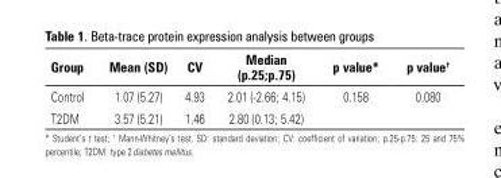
<table><thead><tr><td>Group</td><td>Mean (SD)</td><td>CV</td><td>Median (p.25;p.75)</td><td>p value*</td><td>p value†</td></tr></thead><tbody><tr><td>Control</td><td>1.07 (5.27)</td><td>4.93</td><td>2.01 (-2.66; 4.15)</td><td>0.158</td><td>0.080</td></tr><tr><td>T2DM</td><td>3.57 (5.21)</td><td>1.46</td><td>2.80 (0.13; 5.42)</td><td></td><td></td></tr></tbody></table>